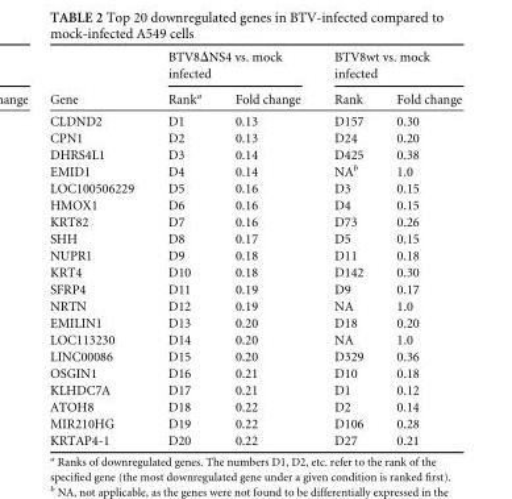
<table><thead><tr><td rowspan="2">Gene</td><td colspan="2">BTV8ΔNS4 vs. mock infected</td><td colspan="2">BTV8wt vs. mock infected</td></tr><tr><td>Rank<sup>a</sup></td><td>Fold change</td><td>Rank</td><td>Fold change</td></tr></thead><tbody><tr><td>CLDND2</td><td>D1</td><td>0.13</td><td>D157</td><td>0.30</td></tr><tr><td>CPN1</td><td>D2</td><td>0.13</td><td>D24</td><td>0.20</td></tr><tr><td>DHRS4L1</td><td>D3</td><td>0.14</td><td>D425</td><td>0.38</td></tr><tr><td>EMID1</td><td>D4</td><td>0.14</td><td>NA<sup>b</sup></td><td>1.0</td></tr><tr><td>LOC100506229</td><td>D5</td><td>0.16</td><td>D3</td><td>0.15</td></tr><tr><td>HMOX1</td><td>D6</td><td>0.16</td><td>D4</td><td>0.15</td></tr><tr><td>KRT82</td><td>D7</td><td>0.16</td><td>D73</td><td>0.26</td></tr><tr><td>SHH</td><td>D8</td><td>0.17</td><td>D5</td><td>0.15</td></tr><tr><td>NUPR1</td><td>D9</td><td>0.18</td><td>D11</td><td>0.18</td></tr><tr><td>KRT4</td><td>D10</td><td>0.18</td><td>D142</td><td>0.30</td></tr><tr><td>SFRP4</td><td>D11</td><td>0.19</td><td>D9</td><td>0.17</td></tr><tr><td>NRTN</td><td>D12</td><td>0.19</td><td>NA</td><td>1.0</td></tr><tr><td>EMILIN1</td><td>D13</td><td>0.20</td><td>D18</td><td>0.20</td></tr><tr><td>LOC113230</td><td>D14</td><td>0.20</td><td>NA</td><td>1.0</td></tr><tr><td>LINC00086</td><td>D15</td><td>0.20</td><td>D329</td><td>0.36</td></tr><tr><td>OSGIN1</td><td>D16</td><td>0.21</td><td>D10</td><td>0.18</td></tr><tr><td>KLHDC7A</td><td>D17</td><td>0.21</td><td>D1</td><td>0.12</td></tr><tr><td>ATOH8</td><td>D18</td><td>0.22</td><td>D2</td><td>0.14</td></tr><tr><td>MIR210HG</td><td>D19</td><td>0.22</td><td>D106</td><td>0.28</td></tr><tr><td>KRTAP4-1</td><td>D20</td><td>0.22</td><td>D27</td><td>0.21</td></tr></tbody></table>